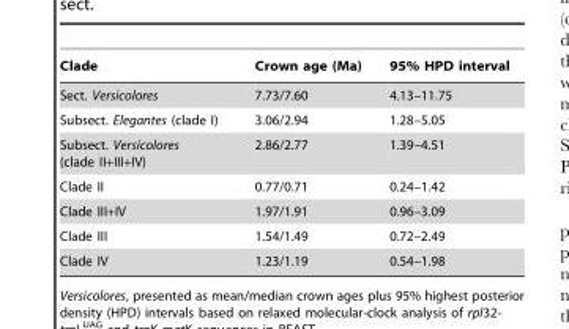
<table><thead><tr><td>Clade</td><td>Crown age (Ma)</td><td>95% HPD interval</td></tr></thead><tbody><tr><td>Sect. Versicolores</td><td>7.73/7.60</td><td>4.13–11.75</td></tr><tr><td>Subsect. Elegantes (clade I)</td><td>3.06/2.94</td><td>1.28–5.05</td></tr><tr><td>Subsect. Versicolores (clade II+III+IV)</td><td>2.86/2.77</td><td>1.39–4.51</td></tr><tr><td>Clade II</td><td>0.77/0.71</td><td>0.24–1.42</td></tr><tr><td>Clade III+IV</td><td>1.97/1.91</td><td>0.96–3.09</td></tr><tr><td>Clade III</td><td>1.54/1.49</td><td>0.72–2.49</td></tr><tr><td>Clade IV</td><td>1.23/1.19</td><td>0.54–1.98</td></tr></tbody></table>